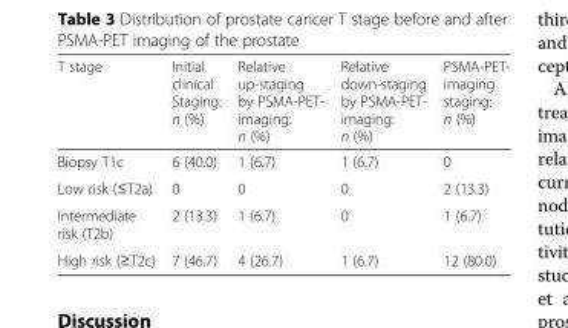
<table><thead><tr><td>T stage</td><td>Initial clinical Staging: n (%)</td><td>Relative up-staging by PSMA-PET- imaging: n (%)</td><td>Relative down-staging by PSMA-PET- imaging: n (%)</td><td>PSMA-PET- imaging staging: n (%)</td></tr></thead><tbody><tr><td>Biopsy T1c</td><td>6 (40.0)</td><td>1 (6.7)</td><td>1 (6.7)</td><td>0</td></tr><tr><td>Low risk (≤T2a)</td><td>0</td><td>0</td><td>0</td><td>2 (13.3)</td></tr><tr><td>Intermediate risk (T2b)</td><td>2 (13.3)</td><td>1 (6.7)</td><td>0</td><td>1 (6.7)</td></tr><tr><td>High risk (≥T2c)</td><td>7 (46.7)</td><td>4 (26.7)</td><td>1 (6.7)</td><td>12 (80.0)</td></tr></tbody></table>